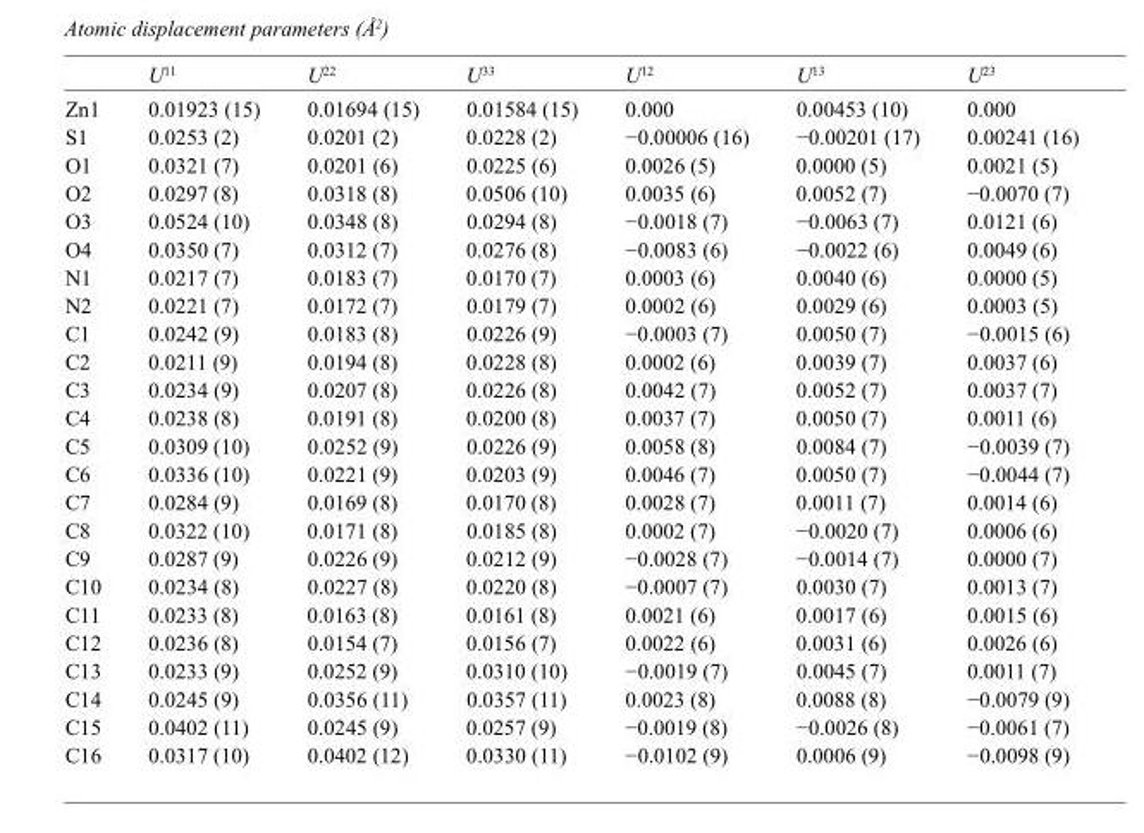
<table><thead><tr><td></td><td>U<sup>11</sup></td><td>U<sup>22</sup></td><td>U<sup>33</sup></td><td>U<sup>12</sup></td><td>U<sup>13</sup></td><td>U<sup>23</sup></td></tr></thead><tbody><tr><td>Zn1</td><td>0.01923 (15)</td><td>0.01694 (15)</td><td>0.01584 (15)</td><td>0.000</td><td>0.00453 (10)</td><td>0.000</td></tr><tr><td>S1</td><td>0.0253 (2)</td><td>0.0201 (2)</td><td>0.0228 (2)</td><td>−0.00006 (16)</td><td>−0.00201 (17)</td><td>0.00241 (16)</td></tr><tr><td>O1</td><td>0.0321 (7)</td><td>0.0201 (6)</td><td>0.0225 (6)</td><td>0.0026 (5)</td><td>0.0000 (5)</td><td>0.0021 (5)</td></tr><tr><td>O2</td><td>0.0297 (8)</td><td>0.0318 (8)</td><td>0.0506 (10)</td><td>0.0035 (6)</td><td>0.0052 (7)</td><td>−0.0070 (7)</td></tr><tr><td>O3</td><td>0.0524 (10)</td><td>0.0348 (8)</td><td>0.0294 (8)</td><td>−0.0018 (7)</td><td>−0.0063 (7)</td><td>0.0121 (6)</td></tr><tr><td>O4</td><td>0.0350 (7)</td><td>0.0312 (7)</td><td>0.0276 (8)</td><td>−0.0083 (6)</td><td>−0.0022 (6)</td><td>0.0049 (6)</td></tr><tr><td>N1</td><td>0.0217 (7)</td><td>0.0183 (7)</td><td>0.0170 (7)</td><td>0.0003 (6)</td><td>0.0040 (6)</td><td>0.0000 (5)</td></tr><tr><td>N2</td><td>0.0221 (7)</td><td>0.0172 (7)</td><td>0.0179 (7)</td><td>0.0002 (6)</td><td>0.0029 (6)</td><td>0.0003 (5)</td></tr><tr><td>C1</td><td>0.0242 (9)</td><td>0.0183 (8)</td><td>0.0226 (9)</td><td>−0.0003 (7)</td><td>0.0050 (7)</td><td>−0.0015 (6)</td></tr><tr><td>C2</td><td>0.0211 (9)</td><td>0.0194 (8)</td><td>0.0228 (8)</td><td>0.0002 (6)</td><td>0.0039 (7)</td><td>0.0037 (6)</td></tr><tr><td>C3</td><td>0.0234 (9)</td><td>0.0207 (8)</td><td>0.0226 (8)</td><td>0.0042 (7)</td><td>0.0052 (7)</td><td>0.0037 (7)</td></tr><tr><td>C4</td><td>0.0238 (8)</td><td>0.0191 (8)</td><td>0.0200 (8)</td><td>0.0037 (7)</td><td>0.0050 (7)</td><td>0.0011 (6)</td></tr><tr><td>C5</td><td>0.0309 (10)</td><td>0.0252 (9)</td><td>0.0226 (9)</td><td>0.0058 (8)</td><td>0.0084 (7)</td><td>−0.0039 (7)</td></tr><tr><td>C6</td><td>0.0336 (10)</td><td>0.0221 (9)</td><td>0.0203 (9)</td><td>0.0046 (7)</td><td>0.0050 (7)</td><td>−0.0044 (7)</td></tr><tr><td>C7</td><td>0.0284 (9)</td><td>0.0169 (8)</td><td>0.0170 (8)</td><td>0.0028 (7)</td><td>0.0011 (7)</td><td>0.0014 (6)</td></tr><tr><td>C8</td><td>0.0322 (10)</td><td>0.0171 (8)</td><td>0.0185 (8)</td><td>0.0002 (7)</td><td>−0.0020 (7)</td><td>0.0006 (6)</td></tr><tr><td>C9</td><td>0.0287 (9)</td><td>0.0226 (9)</td><td>0.0212 (9)</td><td>−0.0028 (7)</td><td>−0.0014 (7)</td><td>0.0000 (7)</td></tr><tr><td>C10</td><td>0.0234 (8)</td><td>0.0227 (8)</td><td>0.0220 (8)</td><td>−0.0007 (7)</td><td>0.0030 (7)</td><td>0.0013 (7)</td></tr><tr><td>C11</td><td>0.0233 (8)</td><td>0.0163 (8)</td><td>0.0161 (8)</td><td>0.0021 (6)</td><td>0.0017 (6)</td><td>0.0015 (6)</td></tr><tr><td>C12</td><td>0.0236 (8)</td><td>0.0154 (7)</td><td>0.0156 (7)</td><td>0.0022 (6)</td><td>0.0031 (6)</td><td>0.0026 (6)</td></tr><tr><td>C13</td><td>0.0233 (9)</td><td>0.0252 (9)</td><td>0.0310 (10)</td><td>−0.0019 (7)</td><td>0.0045 (7)</td><td>0.0011 (7)</td></tr><tr><td>C14</td><td>0.0245 (9)</td><td>0.0356 (11)</td><td>0.0357 (11)</td><td>0.0023 (8)</td><td>0.0088 (8)</td><td>−0.0079 (9)</td></tr><tr><td>C15</td><td>0.0402 (11)</td><td>0.0245 (9)</td><td>0.0257 (9)</td><td>−0.0019 (8)</td><td>−0.0026 (8)</td><td>−0.0061 (7)</td></tr><tr><td>C16</td><td>0.0317 (10)</td><td>0.0402 (12)</td><td>0.0330 (11)</td><td>−0.0102 (9)</td><td>0.0006 (9)</td><td>−0.0098 (9)</td></tr></tbody></table>